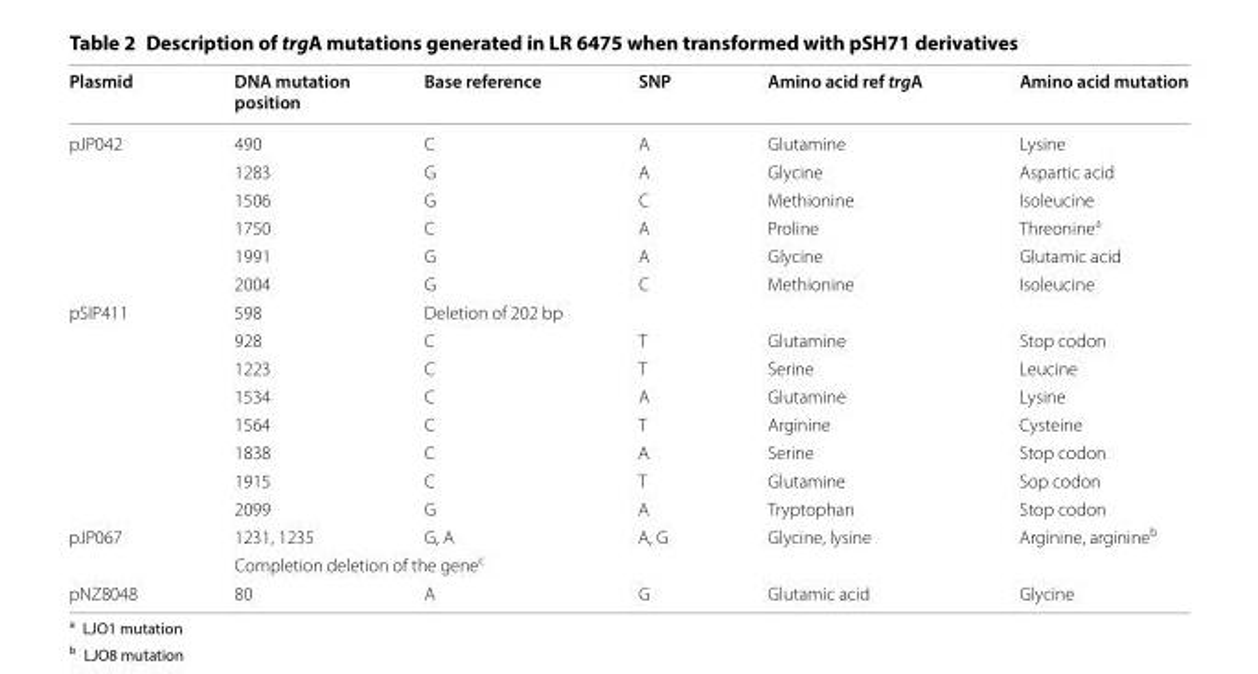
<table><thead><tr><td>Plasmid</td><td>DNA mutation position</td><td>Base reference</td><td>SNP</td><td>Amino acid ref trgA</td><td>Amino acid mutation</td></tr></thead><tbody><tr><td rowspan="6">pJP042</td><td>490</td><td>C</td><td>A</td><td>Glutamine</td><td>Lysine</td></tr><tr><td>1283</td><td>G</td><td>A</td><td>Glycine</td><td>Aspartic acid</td></tr><tr><td>1506</td><td>G</td><td>C</td><td>Methionine</td><td>Isoleucine</td></tr><tr><td>1750</td><td>C</td><td>A</td><td>Proline</td><td>Threonine<sup>a</sup></td></tr><tr><td>1991</td><td>G</td><td>A</td><td>Glycine</td><td>Glutamic acid</td></tr><tr><td>2004</td><td>G</td><td>C</td><td>Methionine</td><td>Isoleucine</td></tr><tr><td rowspan="8">pSIP411</td><td>598</td><td colspan="4">Deletion of 202 bp</td></tr><tr><td>928</td><td>C</td><td>T</td><td>Glutamine</td><td>Stop codon</td></tr><tr><td>1223</td><td>C</td><td>T</td><td>Serine</td><td>Leucine</td></tr><tr><td>1534</td><td>C</td><td>A</td><td>Glutamine</td><td>Lysine</td></tr><tr><td>1564</td><td>C</td><td>T</td><td>Arginine</td><td>Cysteine</td></tr><tr><td>1838</td><td>C</td><td>A</td><td>Serine</td><td>Stop codon</td></tr><tr><td>1915</td><td>C</td><td>T</td><td>Glutamine</td><td>Sop codon</td></tr><tr><td>2099</td><td>G</td><td>A</td><td>Tryptophan</td><td>Stop codon</td></tr><tr><td rowspan="2">pJP067</td><td>1231, 1235</td><td>G, A</td><td>A, G</td><td>Glycine, lysine</td><td>Arginine, arginine<sup>b</sup></td></tr><tr><td colspan="5">Completion deletion of the gene<sup>c</sup></td></tr><tr><td>pNZ8048</td><td>80</td><td>A</td><td>G</td><td>Glutamic acid</td><td>Glycine</td></tr></tbody></table>